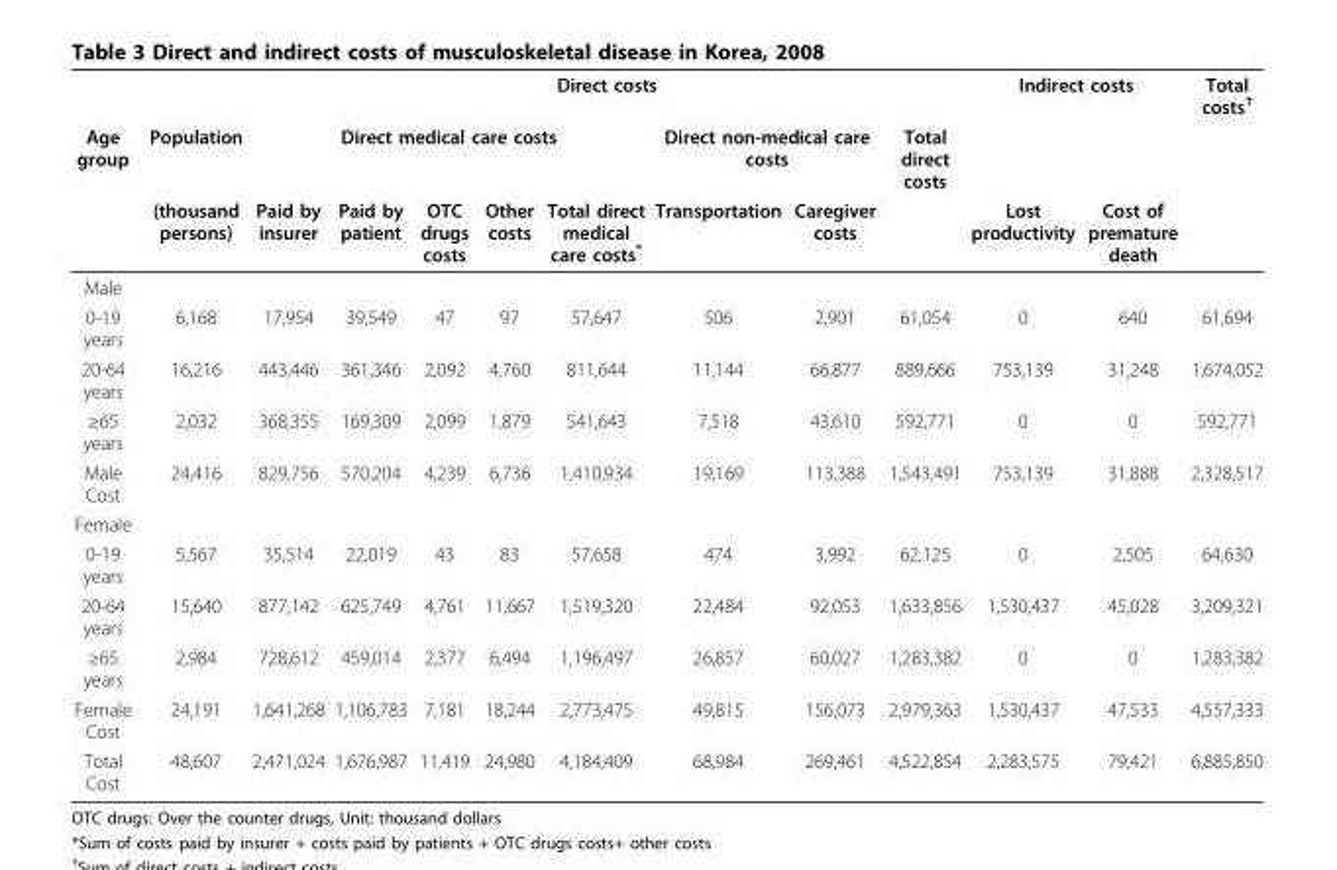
<table><thead><tr><td rowspan="3">Age group</td><td rowspan="3">Population (thousand persons)</td><td colspan="8">Direct costs</td><td colspan="2">Indirect costs</td><td rowspan="3">Total costs<sup>†</sup></td></tr><tr><td colspan="5">Direct medical care costs</td><td colspan="2">Direct non-medical care costs</td><td rowspan="2">Total direct costs</td><td rowspan="2">Lost productivity</td><td rowspan="2">Cost of premature death</td></tr><tr><td>Paid by insurer</td><td>Paid by patient</td><td>OTC drugs costs</td><td>Other costs</td><td>Total direct medical care costs*</td><td>Transportation</td><td>Caregiver costs</td></tr></thead><tbody><tr><td colspan="13">Male</td></tr><tr><td>0-19 years</td><td>6,168</td><td>17,954</td><td>39,549</td><td>47</td><td>97</td><td>57,647</td><td>506</td><td>2,901</td><td>61,054</td><td>0</td><td>640</td><td>61,694</td></tr><tr><td>20-64 years</td><td>16,216</td><td>443,446</td><td>361,346</td><td>2,092</td><td>4,760</td><td>811,644</td><td>11,144</td><td>66,877</td><td>889,666</td><td>753,139</td><td>31,248</td><td>1,674,052</td></tr><tr><td>≥65 years</td><td>2,032</td><td>368,355</td><td>169,309</td><td>2,099</td><td>1,879</td><td>541,643</td><td>7,518</td><td>43,610</td><td>592,771</td><td>0</td><td>0</td><td>592,771</td></tr><tr><td>Male Cost</td><td>24,416</td><td>829,756</td><td>570,204</td><td>4,239</td><td>6,736</td><td>1,410,934</td><td>19,169</td><td>113,388</td><td>1,543,491</td><td>753,139</td><td>31,888</td><td>2,328,517</td></tr><tr><td colspan="13">Female</td></tr><tr><td>0-19 years</td><td>5,567</td><td>35,514</td><td>22,019</td><td>43</td><td>83</td><td>57,658</td><td>474</td><td>3,992</td><td>62,125</td><td>0</td><td>2,505</td><td>64,630</td></tr><tr><td>20-64 years</td><td>15,640</td><td>877,142</td><td>625,749</td><td>4,761</td><td>11,667</td><td>1,519,320</td><td>22,484</td><td>92,053</td><td>1,633,856</td><td>1,530,437</td><td>45,028</td><td>3,209,321</td></tr><tr><td>≥65 years</td><td>2,984</td><td>728,612</td><td>459,014</td><td>2,377</td><td>6,494</td><td>1,196,497</td><td>26,857</td><td>60,027</td><td>1,283,382</td><td>0</td><td>0</td><td>1,283,382</td></tr><tr><td>Female Cost</td><td>24,191</td><td>1,641,268</td><td>1,106,783</td><td>7,181</td><td>18,244</td><td>2,773,475</td><td>49,815</td><td>156,073</td><td>2,979,363</td><td>1,530,437</td><td>47,533</td><td>4,557,333</td></tr><tr><td>Total Cost</td><td>48,607</td><td>2,471,024</td><td>1,676,987</td><td>11,419</td><td>24,980</td><td>4,184,409</td><td>68,984</td><td>269,461</td><td>4,522,854</td><td>2,283,575</td><td>79,421</td><td>6,885,850</td></tr></tbody></table>